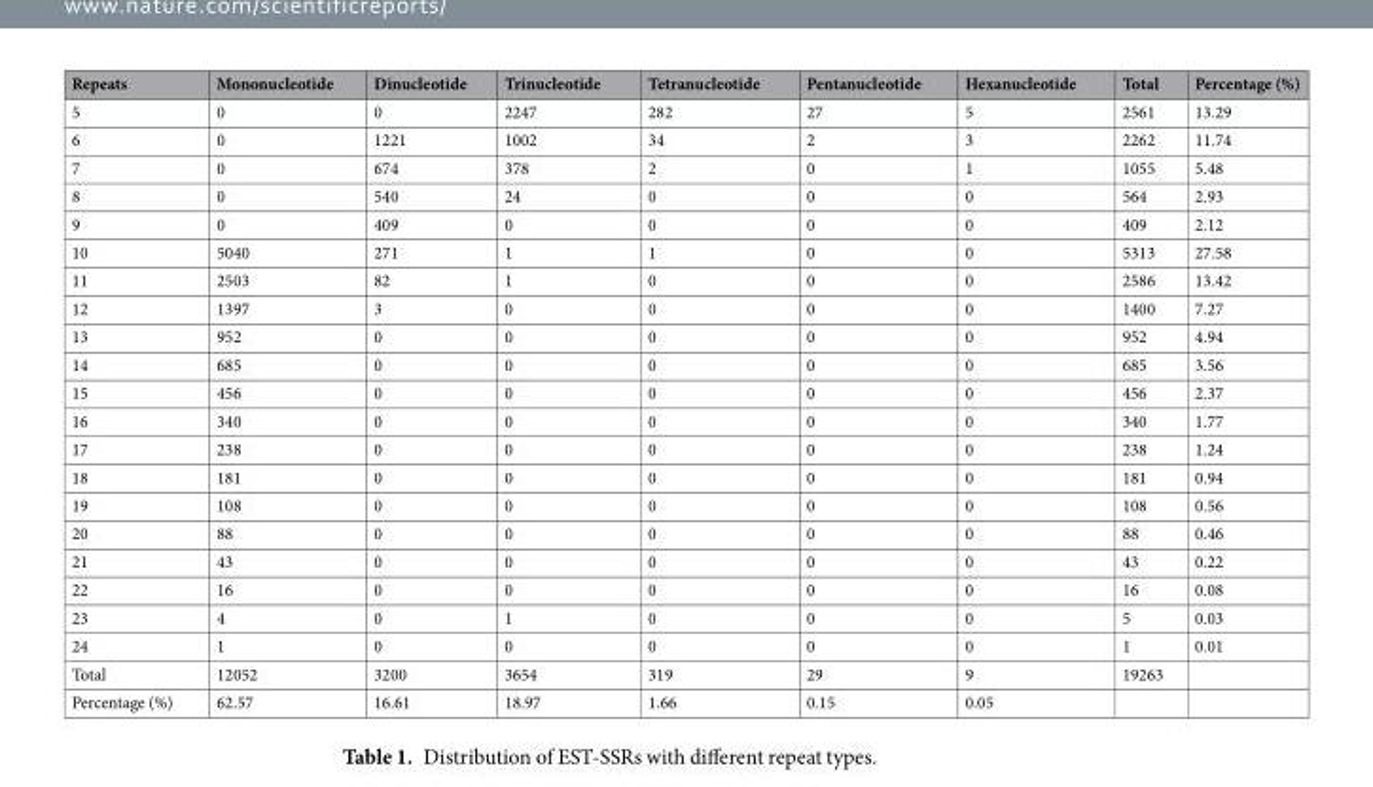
<table><thead><tr><td>Repeats</td><td>Mononucleotide</td><td>Dinucleotide</td><td>Trinucleotide</td><td>Tetranucleotide</td><td>Pentanucleotide</td><td>Hexanucleotide</td><td>Total</td><td>Percentage (%)</td></tr></thead><tbody><tr><td>5</td><td>0</td><td>0</td><td>2247</td><td>282</td><td>27</td><td>5</td><td>2561</td><td>13.29</td></tr><tr><td>6</td><td>0</td><td>1221</td><td>1002</td><td>34</td><td>2</td><td>3</td><td>2262</td><td>11.74</td></tr><tr><td>7</td><td>0</td><td>674</td><td>378</td><td>2</td><td>0</td><td>1</td><td>1055</td><td>5.48</td></tr><tr><td>8</td><td>0</td><td>540</td><td>24</td><td>0</td><td>0</td><td>0</td><td>564</td><td>2.93</td></tr><tr><td>9</td><td>0</td><td>409</td><td>0</td><td>0</td><td>0</td><td>0</td><td>409</td><td>2.12</td></tr><tr><td>10</td><td>5040</td><td>271</td><td>1</td><td>1</td><td>0</td><td>0</td><td>5313</td><td>27.58</td></tr><tr><td>11</td><td>2503</td><td>82</td><td>1</td><td>0</td><td>0</td><td>0</td><td>2586</td><td>13.42</td></tr><tr><td>12</td><td>1397</td><td>3</td><td>0</td><td>0</td><td>0</td><td>0</td><td>1400</td><td>7.27</td></tr><tr><td>13</td><td>952</td><td>0</td><td>0</td><td>0</td><td>0</td><td>0</td><td>952</td><td>4.94</td></tr><tr><td>14</td><td>685</td><td>0</td><td>0</td><td>0</td><td>0</td><td>0</td><td>685</td><td>3.56</td></tr><tr><td>15</td><td>456</td><td>0</td><td>0</td><td>0</td><td>0</td><td>0</td><td>456</td><td>2.37</td></tr><tr><td>16</td><td>340</td><td>0</td><td>0</td><td>0</td><td>0</td><td>0</td><td>340</td><td>1.77</td></tr><tr><td>17</td><td>238</td><td>0</td><td>0</td><td>0</td><td>0</td><td>0</td><td>238</td><td>1.24</td></tr><tr><td>18</td><td>181</td><td>0</td><td>0</td><td>0</td><td>0</td><td>0</td><td>181</td><td>0.94</td></tr><tr><td>19</td><td>108</td><td>0</td><td>0</td><td>0</td><td>0</td><td>0</td><td>108</td><td>0.56</td></tr><tr><td>20</td><td>88</td><td>0</td><td>0</td><td>0</td><td>0</td><td>0</td><td>88</td><td>0.46</td></tr><tr><td>21</td><td>43</td><td>0</td><td>0</td><td>0</td><td>0</td><td>0</td><td>43</td><td>0.22</td></tr><tr><td>22</td><td>16</td><td>0</td><td>0</td><td>0</td><td>0</td><td>0</td><td>16</td><td>0.08</td></tr><tr><td>23</td><td>4</td><td>0</td><td>1</td><td>0</td><td>0</td><td>0</td><td>5</td><td>0.03</td></tr><tr><td>24</td><td>1</td><td>0</td><td>0</td><td>0</td><td>0</td><td>0</td><td>1</td><td>0.01</td></tr><tr><td>Total</td><td>12052</td><td>3200</td><td>3654</td><td>319</td><td>29</td><td>9</td><td>19263</td><td></td></tr><tr><td>Percentage (%)</td><td>62.57</td><td>16.61</td><td>18.97</td><td>1.66</td><td>0.15</td><td>0.05</td><td></td><td></td></tr></tbody></table>